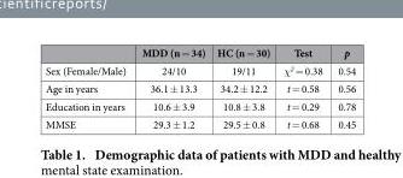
<table><thead><tr><td></td><td>MDD (n = 34)</td><td>HC (n = 30)</td><td>Test</td><td>p</td></tr></thead><tbody><tr><td>Sex (Female/Male)</td><td>24/10</td><td>19/11</td><td>χ<sup>2</sup> = 0.38</td><td>0.54</td></tr><tr><td>Age in years</td><td>36.1 ± 13.3</td><td>34.2 ± 12.2</td><td>t = 0.58</td><td>0.56</td></tr><tr><td>Education in years</td><td>10.6 ± 3.9</td><td>10.8 ± 3.8</td><td>t = 0.29</td><td>0.78</td></tr><tr><td>MMSE</td><td>29.3 ± 1.2</td><td>29.5 ± 0.8</td><td>t = 0.68</td><td>0.45</td></tr></tbody></table>